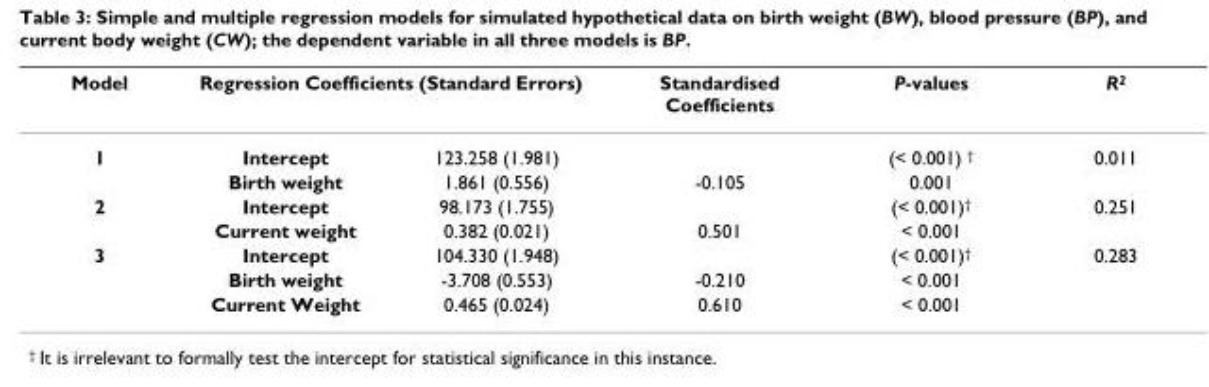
<table><thead><tr><td rowspan="2">Model 1</td><td colspan="2">Regression Coefficients (Standard Errors)</td><td rowspan="2">Standardised Coefficients</td><td rowspan="2">P-values (&lt; 0.001) <sup>†</sup></td><td rowspan="2">R<sup>2</sup> 0.011</td></tr><tr><td>Intercept</td><td>123.258 (1.981)</td></tr></thead><tbody><tr><td></td><td>Birth weight</td><td>1.861 (0.556)</td><td>-0.105</td><td>0.001</td><td></td></tr><tr><td rowspan="2">2</td><td>Intercept</td><td>98.173 (1.755)</td><td></td><td>(&lt; 0.001)<sup>†</sup></td><td>0.251</td></tr><tr><td>Current weight</td><td>0.382 (0.021)</td><td>0.501</td><td>&lt; 0.001</td><td></td></tr><tr><td rowspan="3">3</td><td>Intercept</td><td>104.330 (1.948)</td><td></td><td>(&lt; 0.001)<sup>†</sup></td><td>0.283</td></tr><tr><td>Birth weight</td><td>-3.708 (0.553)</td><td>-0.210</td><td>&lt; 0.001</td><td></td></tr><tr><td>Current Weight</td><td>0.465 (0.024)</td><td>0.610</td><td>&lt; 0.001</td><td></td></tr></tbody></table>